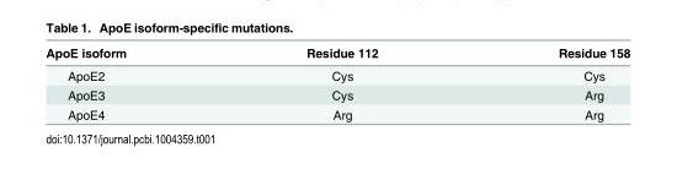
<table><thead><tr><td>ApoE isoform</td><td>Residue 112</td><td>Residue 158</td></tr></thead><tbody><tr><td>ApoE2</td><td>Cys</td><td>Cys</td></tr><tr><td>ApoE3</td><td>Cys</td><td>Arg</td></tr><tr><td>ApoE4</td><td>Arg</td><td>Arg</td></tr></tbody></table>